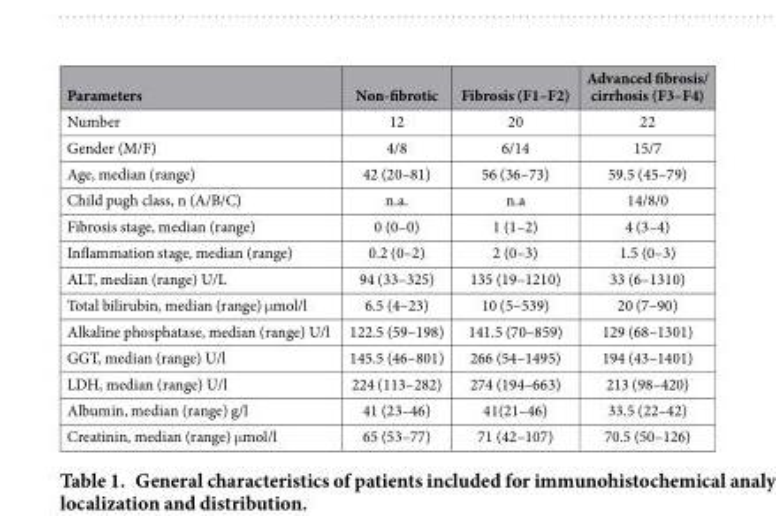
<table><thead><tr><td>Parameters</td><td>Non-fibrotic</td><td>Fibrosis (F1–F2)</td><td>Advanced fibrosis/ cirrhosis (F3–F4)</td></tr></thead><tbody><tr><td>Number</td><td>12</td><td>20</td><td>22</td></tr><tr><td>Gender (M/F)</td><td>4/8</td><td>6/14</td><td>15/7</td></tr><tr><td>Age, median (range)</td><td>42 (20–81)</td><td>56 (36–73)</td><td>59.5 (45–79)</td></tr><tr><td>Child pugh class, n (A/B/C)</td><td>n.a.</td><td>n.a</td><td>14/8/0</td></tr><tr><td>Fibrosis stage, median (range)</td><td>0 (0–0)</td><td>1 (1–2)</td><td>4 (3–4)</td></tr><tr><td>Inflammation stage, median (range)</td><td>0.2 (0–2)</td><td>2 (0–3)</td><td>1.5 (0–3)</td></tr><tr><td>ALT, median (range) U/L</td><td>94 (33–325)</td><td>135 (19–1210)</td><td>33 (6–1310)</td></tr><tr><td>Total bilirubin, median (range) μ mol/l</td><td>6.5 (4–23)</td><td>10 (5–539)</td><td>20 (7–90)</td></tr><tr><td>Alkaline phosphatase, median (range) U/l</td><td>122.5 (59–198)</td><td>141.5 (70–859)</td><td>129 (68–1301)</td></tr><tr><td>GGT, median (range) U/l</td><td>145.5 (46–801)</td><td>266 (54–1495)</td><td>194 (43–1401)</td></tr><tr><td>LDH, median (range) U/l</td><td>224 (113–282)</td><td>274 (194–663)</td><td>213 (98–420)</td></tr><tr><td>Albumin, median (range) g/l</td><td>41 (23–46)</td><td>41(21–46)</td><td>33.5 (22–42)</td></tr><tr><td>Creatinin, median (range) μ mol/l</td><td>65 (53–77)</td><td>71 (42–107)</td><td>70.5 (50–126)</td></tr></tbody></table>